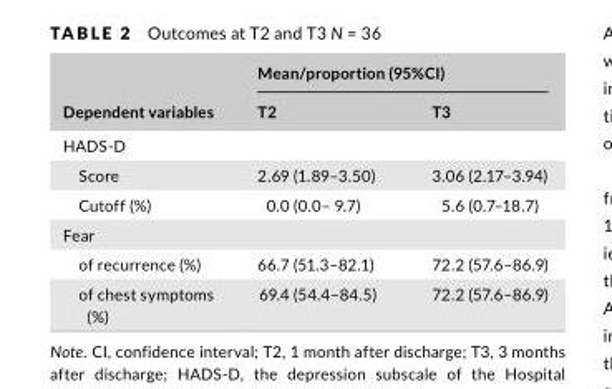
<table><thead><tr><td rowspan="2">Dependent variables</td><td colspan="2">Mean/proportion (95%CI)</td></tr><tr><td>T2</td><td>T3</td></tr></thead><tbody><tr><td colspan="3">HADS‐D</td></tr><tr><td>Score</td><td>2.69 (1.89–3.50)</td><td>3.06 (2.17–3.94)</td></tr><tr><td>Cutoff (%)</td><td>0.0 (0.0– 9.7)</td><td>5.6 (0.7–18.7)</td></tr><tr><td colspan="3">Fear</td></tr><tr><td>of recurrence (%)</td><td>66.7 (51.3–82.1)</td><td>72.2 (57.6–86.9)</td></tr><tr><td>of chest symptoms (%)</td><td>69.4 (54.4–84.5)</td><td>72.2 (57.6–86.9)</td></tr></tbody></table>